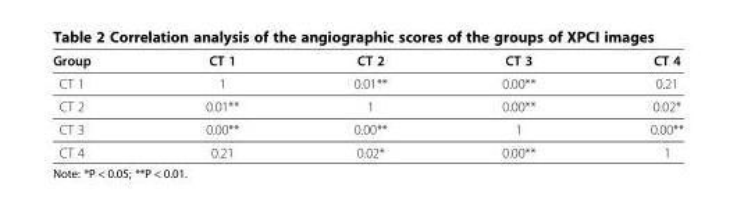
<table><thead><tr><td>Group</td><td>CT 1</td><td>CT 2</td><td>CT 3</td><td>CT 4</td></tr></thead><tbody><tr><td>CT 1</td><td>1</td><td>0.01**</td><td>0.00**</td><td>0.21</td></tr><tr><td>CT 2</td><td>0.01**</td><td>1</td><td>0.00**</td><td>0.02*</td></tr><tr><td>CT 3</td><td>0.00**</td><td>0.00**</td><td>1</td><td>0.00**</td></tr><tr><td>CT 4</td><td>0.21</td><td>0.02*</td><td>0.00**</td><td>1</td></tr></tbody></table>